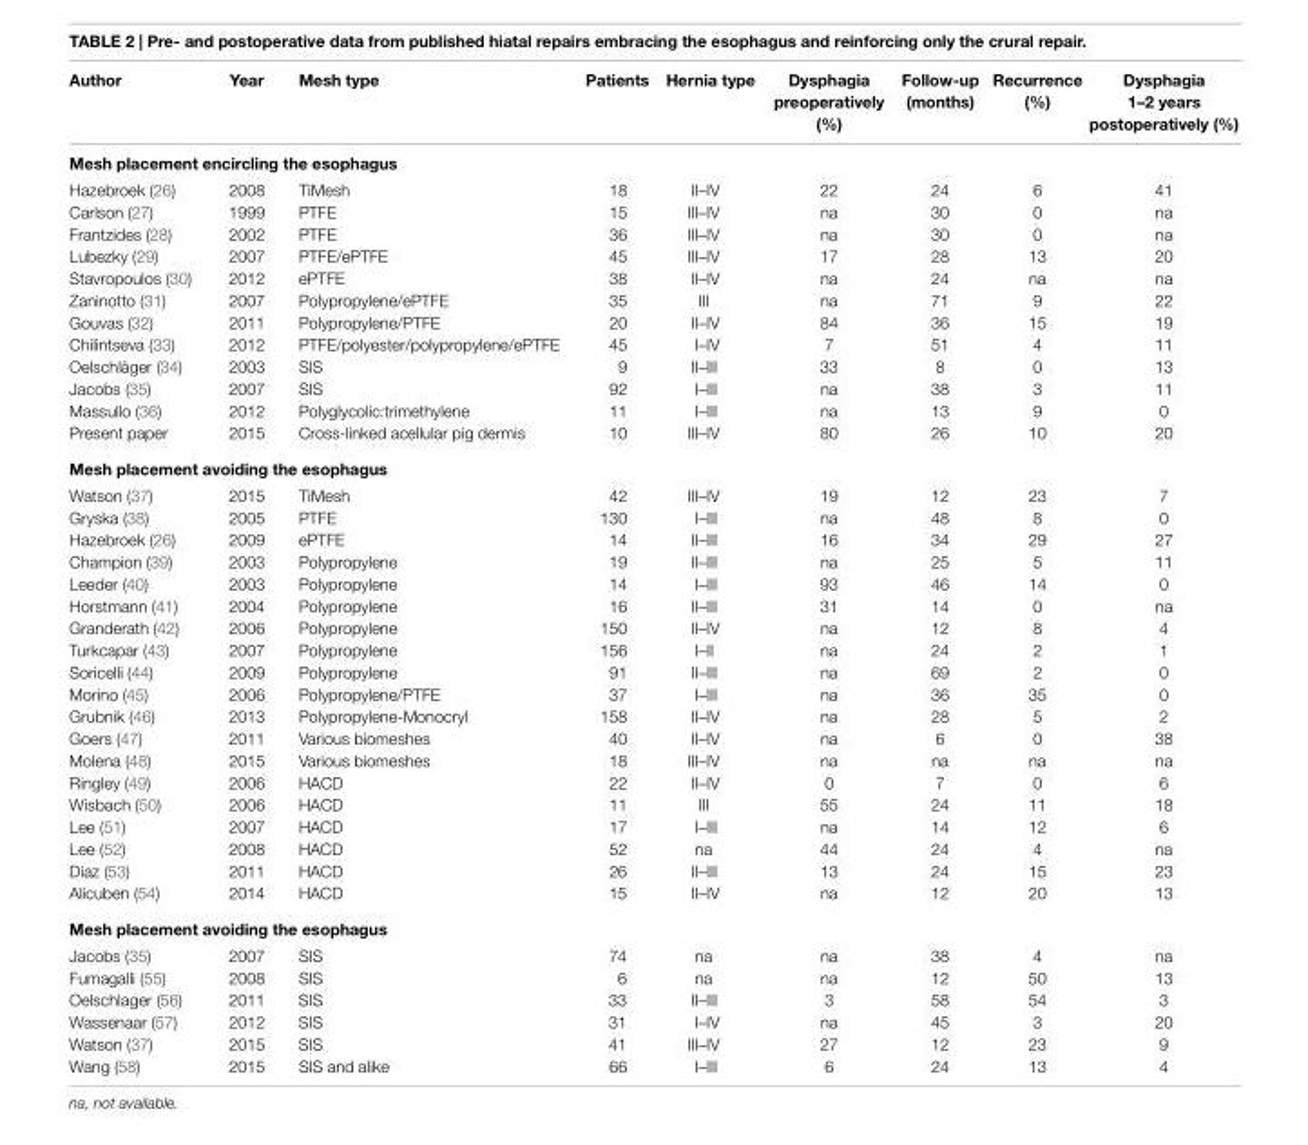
<table><thead><tr><td>author</td><td>Year</td><td>Mesh type</td><td>Patients</td><td>hernia type</td><td>Dysphagia preoperatively (%)</td><td>Follow-up (months)</td><td>recurrence (%)</td><td>Dysphagia 1–2 years postoperatively (%)</td></tr></thead><tbody><tr><td colspan="9">Mesh placement encircling the esophagus</td></tr><tr><td>Hazebroek (26)</td><td>2008</td><td>TiMesh</td><td>18</td><td>II–IV</td><td>22</td><td>24</td><td>6</td><td>41</td></tr><tr><td>Carlson (27)</td><td>1999</td><td>PTFE</td><td>15</td><td>III–IV</td><td>na</td><td>30</td><td>0</td><td>na</td></tr><tr><td>Frantzides (28)</td><td>2002</td><td>PTFE</td><td>36</td><td>III–IV</td><td>na</td><td>30</td><td>0</td><td>na</td></tr><tr><td>Lubezky (29)</td><td>2007</td><td>PTFE/ePTFE</td><td>45</td><td>III–IV</td><td>17</td><td>28</td><td>13</td><td>20</td></tr><tr><td>Stavropoulos (30)</td><td>2012</td><td>ePTFE</td><td>38</td><td>II–IV</td><td>na</td><td>24</td><td>na</td><td>na</td></tr><tr><td>Zaninotto (31)</td><td>2007</td><td>Polypropylene/ePTFE</td><td>35</td><td>III</td><td>na</td><td>71</td><td>9</td><td>22</td></tr><tr><td>Gouvas (32)</td><td>2011</td><td>Polypropylene/PTFE</td><td>20</td><td>II–IV</td><td>84</td><td>36</td><td>15</td><td>19</td></tr><tr><td>Chilintseva (33)</td><td>2012</td><td>PTFE/polyester/polypropylene/ePTFE</td><td>45</td><td>I–IV</td><td>7</td><td>51</td><td>4</td><td>11</td></tr><tr><td>Oelschläger (34)</td><td>2003</td><td>SIS</td><td>9</td><td>II–III</td><td>33</td><td>8</td><td>0</td><td>13</td></tr><tr><td>Jacobs (35)</td><td>2007</td><td>SIS</td><td>92</td><td>I–III</td><td>na</td><td>38</td><td>3</td><td>11</td></tr><tr><td>Massullo (36)</td><td>2012</td><td>Polyglycolic:trimethylene</td><td>11</td><td>I–III</td><td>na</td><td>13</td><td>9</td><td>0</td></tr><tr><td>Present paper</td><td>2015</td><td>Cross-linked acellular pig dermis</td><td>10</td><td>III–IV</td><td>80</td><td>26</td><td>10</td><td>20</td></tr><tr><td colspan="9">Mesh placement avoiding the esophagus</td></tr><tr><td>Watson (37)</td><td>2015</td><td>TiMesh</td><td>42</td><td>III–IV</td><td>19</td><td>12</td><td>23</td><td>7</td></tr><tr><td>Gryska (38)</td><td>2005</td><td>PTFE</td><td>130</td><td>I–III</td><td>na</td><td>48</td><td>8</td><td>0</td></tr><tr><td>Hazebroek (26)</td><td>2009</td><td>ePTFE</td><td>14</td><td>II–III</td><td>16</td><td>34</td><td>29</td><td>27</td></tr><tr><td>Champion (39)</td><td>2003</td><td>Polypropylene</td><td>19</td><td>II–III</td><td>na</td><td>25</td><td>5</td><td>11</td></tr><tr><td>Leeder (40)</td><td>2003</td><td>Polypropylene</td><td>14</td><td>I–III</td><td>93</td><td>46</td><td>14</td><td>0</td></tr><tr><td>Horstmann (41)</td><td>2004</td><td>Polypropylene</td><td>16</td><td>II–III</td><td>31</td><td>14</td><td>0</td><td>na</td></tr><tr><td>Granderath (42)</td><td>2006</td><td>Polypropylene</td><td>150</td><td>II–IV</td><td>na</td><td>12</td><td>8</td><td>4</td></tr><tr><td>Turkcapar (43)</td><td>2007</td><td>Polypropylene</td><td>156</td><td>I–II</td><td>na</td><td>24</td><td>2</td><td>1</td></tr><tr><td>Soricelli (44)</td><td>2009</td><td>Polypropylene</td><td>91</td><td>II–III</td><td>na</td><td>69</td><td>2</td><td>0</td></tr><tr><td>Morino (45)</td><td>2006</td><td>Polypropylene/PTFE</td><td>37</td><td>I–III</td><td>na</td><td>36</td><td>35</td><td>0</td></tr><tr><td>Grubnik (46)</td><td>2013</td><td>Polypropylene-Monocryl</td><td>158</td><td>II–IV</td><td>na</td><td>28</td><td>5</td><td>2</td></tr><tr><td>Goers (47)</td><td>2011</td><td>Various biomeshes</td><td>40</td><td>II–IV</td><td>na</td><td>6</td><td>0</td><td>38</td></tr><tr><td>Molena (48)</td><td>2015</td><td>Various biomeshes</td><td>18</td><td>III–IV</td><td>na</td><td>na</td><td>na</td><td>na</td></tr><tr><td>Ringley (49)</td><td>2006</td><td>HACD</td><td>22</td><td>II–IV</td><td>0</td><td>7</td><td>0</td><td>6</td></tr><tr><td>Wisbach (50)</td><td>2006</td><td>HACD</td><td>11</td><td>III</td><td>55</td><td>24</td><td>11</td><td>18</td></tr><tr><td>Lee (51)</td><td>2007</td><td>HACD</td><td>17</td><td>I–III</td><td>na</td><td>14</td><td>12</td><td>6</td></tr><tr><td>Lee (52)</td><td>2008</td><td>HACD</td><td>52</td><td>na</td><td>44</td><td>24</td><td>4</td><td>na</td></tr><tr><td>Diaz (53)</td><td>2011</td><td>HACD</td><td>26</td><td>II–III</td><td>13</td><td>24</td><td>15</td><td>23</td></tr><tr><td>Alicuben (54)</td><td>2014</td><td>HACD</td><td>15</td><td>II–IV</td><td>na</td><td>12</td><td>20</td><td>13</td></tr><tr><td colspan="9">Mesh placement avoiding the esophagus</td></tr><tr><td>Jacobs (35)</td><td>2007</td><td>SIS</td><td>74</td><td>na</td><td>na</td><td>38</td><td>4</td><td>na</td></tr><tr><td>Fumagalli (55)</td><td>2008</td><td>SIS</td><td>6</td><td>na</td><td>na</td><td>12</td><td>50</td><td>13</td></tr><tr><td>Oelschlager (56)</td><td>2011</td><td>SIS</td><td>33</td><td>II–III</td><td>3</td><td>58</td><td>54</td><td>3</td></tr><tr><td>Wassenaar (57)</td><td>2012</td><td>SIS</td><td>31</td><td>I–IV</td><td>na</td><td>45</td><td>3</td><td>20</td></tr><tr><td>Watson (37)</td><td>2015</td><td>SIS</td><td>41</td><td>III–IV</td><td>27</td><td>12</td><td>23</td><td>9</td></tr><tr><td>Wang (58)</td><td>2015</td><td>SIS and alike</td><td>66</td><td>I–III</td><td>6</td><td>24</td><td>13</td><td>4</td></tr></tbody></table>